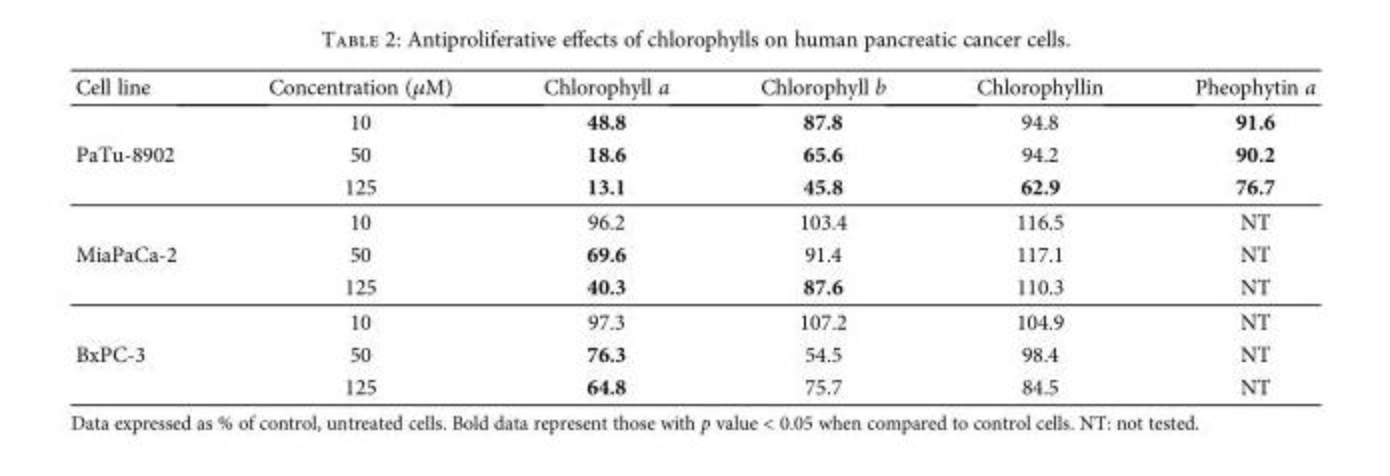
<table><thead><tr><td>Cell line</td><td>Concentration (μM)</td><td>Chlorophyll a</td><td>Chlorophyll b</td><td>Chlorophyllin</td><td>Pheophytin a</td></tr></thead><tbody><tr><td rowspan="3">PaTu-8902</td><td>10</td><td>48.8</td><td>87.8</td><td>94.8</td><td>91.6</td></tr><tr><td>50</td><td>18.6</td><td>65.6</td><td>94.2</td><td>90.2</td></tr><tr><td>125</td><td>13.1</td><td>45.8</td><td>62.9</td><td>76.7</td></tr><tr><td rowspan="3">MiaPaCa-2</td><td>10</td><td>96.2</td><td>103.4</td><td>116.5</td><td>NT</td></tr><tr><td>50</td><td>69.6</td><td>91.4</td><td>117.1</td><td>NT</td></tr><tr><td>125</td><td>40.3</td><td>87.6</td><td>110.3</td><td>NT</td></tr><tr><td rowspan="3">BxPC-3</td><td>10</td><td>97.3</td><td>107.2</td><td>104.9</td><td>NT</td></tr><tr><td>50</td><td>76.3</td><td>54.5</td><td>98.4</td><td>NT</td></tr><tr><td>125</td><td>64.8</td><td>75.7</td><td>84.5</td><td>NT</td></tr></tbody></table>